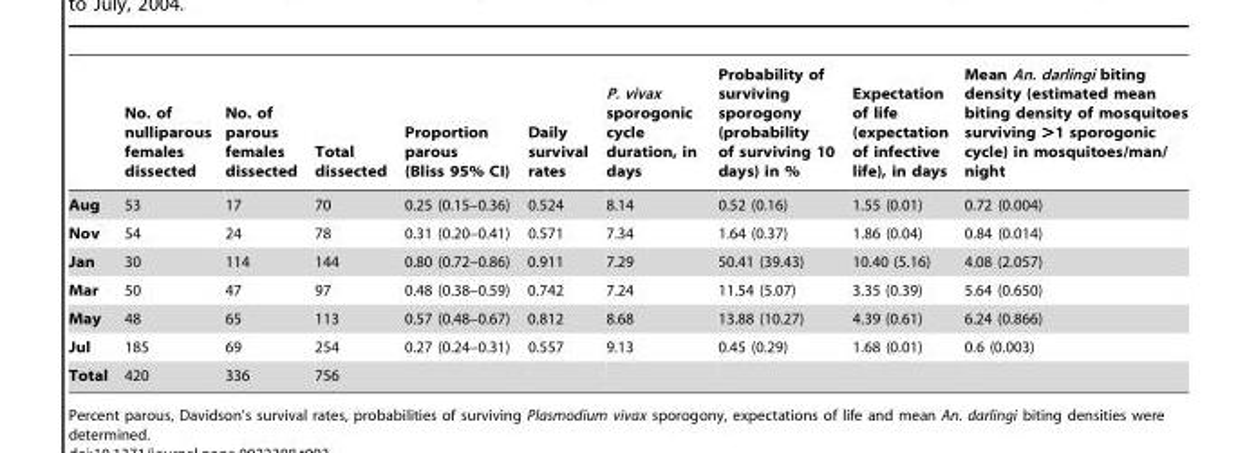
<table><thead><tr><td></td><td>No. of nulliparous females dissected</td><td>No. of parous females dissected</td><td>Total dissected</td><td>Proportion parous (Bliss 95% CI)</td><td>Daily survival rates</td><td>P. vivax sporogonic cycle duration, in days</td><td>Probability of surviving sporogony (probability of surviving 10 days) in %</td><td>Expectation of life (expectation of infective life), in days</td><td>Mean An. darlingi biting density (estimated mean biting density of mosquitoes surviving &gt;1 sporogonic cycle) in mosquitoes/man/ night</td></tr></thead><tbody><tr><td>Aug</td><td>53</td><td>17</td><td>70</td><td>0.25 (0.15–0.36)</td><td>0.524</td><td>8.14</td><td>0.52 (0.16)</td><td>1.55 (0.01)</td><td>0.72 (0.004)</td></tr><tr><td>Nov</td><td>54</td><td>24</td><td>78</td><td>0.31 (0.20–0.41)</td><td>0.571</td><td>7.34</td><td>1.64 (0.37)</td><td>1.86 (0.04)</td><td>0.84 (0.014)</td></tr><tr><td>Jan</td><td>30</td><td>114</td><td>144</td><td>0.80 (0.72–0.86)</td><td>0.911</td><td>7.29</td><td>50.41 (39.43)</td><td>10.40 (5.16)</td><td>4.08 (2.057)</td></tr><tr><td>Mar</td><td>50</td><td>47</td><td>97</td><td>0.48 (0.38–0.59)</td><td>0.742</td><td>7.24</td><td>11.54 (5.07)</td><td>3.35 (0.39)</td><td>5.64 (0.650)</td></tr><tr><td>May</td><td>48</td><td>65</td><td>113</td><td>0.57 (0.48–0.67)</td><td>0.812</td><td>8.68</td><td>13.88 (10.27)</td><td>4.39 (0.61)</td><td>6.24 (0.866)</td></tr><tr><td>Jul</td><td>185</td><td>69</td><td>254</td><td>0.27 (0.24–0.31)</td><td>0.557</td><td>9.13</td><td>0.45 (0.29)</td><td>1.68 (0.01)</td><td>0.6 (0.003)</td></tr><tr><td>Total</td><td>420</td><td>336</td><td>756</td><td></td><td></td><td></td><td></td><td></td><td></td></tr></tbody></table>